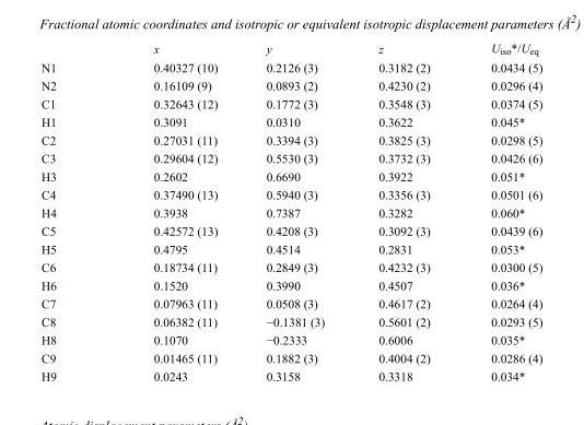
<table><thead><tr><td></td><td>x</td><td>y</td><td>z</td><td>U<sub>iso</sub>*/U<sub>eq</sub></td></tr></thead><tbody><tr><td>N1</td><td>0.40327 (10)</td><td>0.2126 (3)</td><td>0.3182 (2)</td><td>0.0434 (5)</td></tr><tr><td>N2</td><td>0.16109 (9)</td><td>0.0893 (2)</td><td>0.4230 (2)</td><td>0.0296 (4)</td></tr><tr><td>C1</td><td>0.32643 (12)</td><td>0.1772 (3)</td><td>0.3548 (3)</td><td>0.0374 (5)</td></tr><tr><td>H1</td><td>0.3091</td><td>0.0310</td><td>0.3622</td><td>0.045*</td></tr><tr><td>C2</td><td>0.27031 (11)</td><td>0.3394 (3)</td><td>0.3825 (3)</td><td>0.0298 (5)</td></tr><tr><td>C3</td><td>0.29604 (12)</td><td>0.5530 (3)</td><td>0.3732 (3)</td><td>0.0426 (6)</td></tr><tr><td>H3</td><td>0.2602</td><td>0.6690</td><td>0.3922</td><td>0.051*</td></tr><tr><td>C4</td><td>0.37490 (13)</td><td>0.5940 (3)</td><td>0.3356 (3)</td><td>0.0501 (6)</td></tr><tr><td>H4</td><td>0.3938</td><td>0.7387</td><td>0.3282</td><td>0.060*</td></tr><tr><td>C5</td><td>0.42572 (13)</td><td>0.4208 (3)</td><td>0.3092 (3)</td><td>0.0439 (6)</td></tr><tr><td>H5</td><td>0.4795</td><td>0.4514</td><td>0.2831</td><td>0.053*</td></tr><tr><td>C6</td><td>0.18734 (11)</td><td>0.2849 (3)</td><td>0.4232 (3)</td><td>0.0300 (5)</td></tr><tr><td>H6</td><td>0.1520</td><td>0.3990</td><td>0.4507</td><td>0.036*</td></tr><tr><td>C7</td><td>0.07963 (11)</td><td>0.0508 (3)</td><td>0.4617 (2)</td><td>0.0264 (4)</td></tr><tr><td>C8</td><td>0.06382 (11)</td><td>−0.1381 (3)</td><td>0.5601 (2)</td><td>0.0293 (5)</td></tr><tr><td>H8</td><td>0.1070</td><td>−0.2333</td><td>0.6006</td><td>0.035*</td></tr><tr><td>C9</td><td>0.01465 (11)</td><td>0.1882 (3)</td><td>0.4004 (2)</td><td>0.0286 (4)</td></tr><tr><td>H9</td><td>0.0243</td><td>0.3158</td><td>0.3318</td><td>0.034*</td></tr></tbody></table>